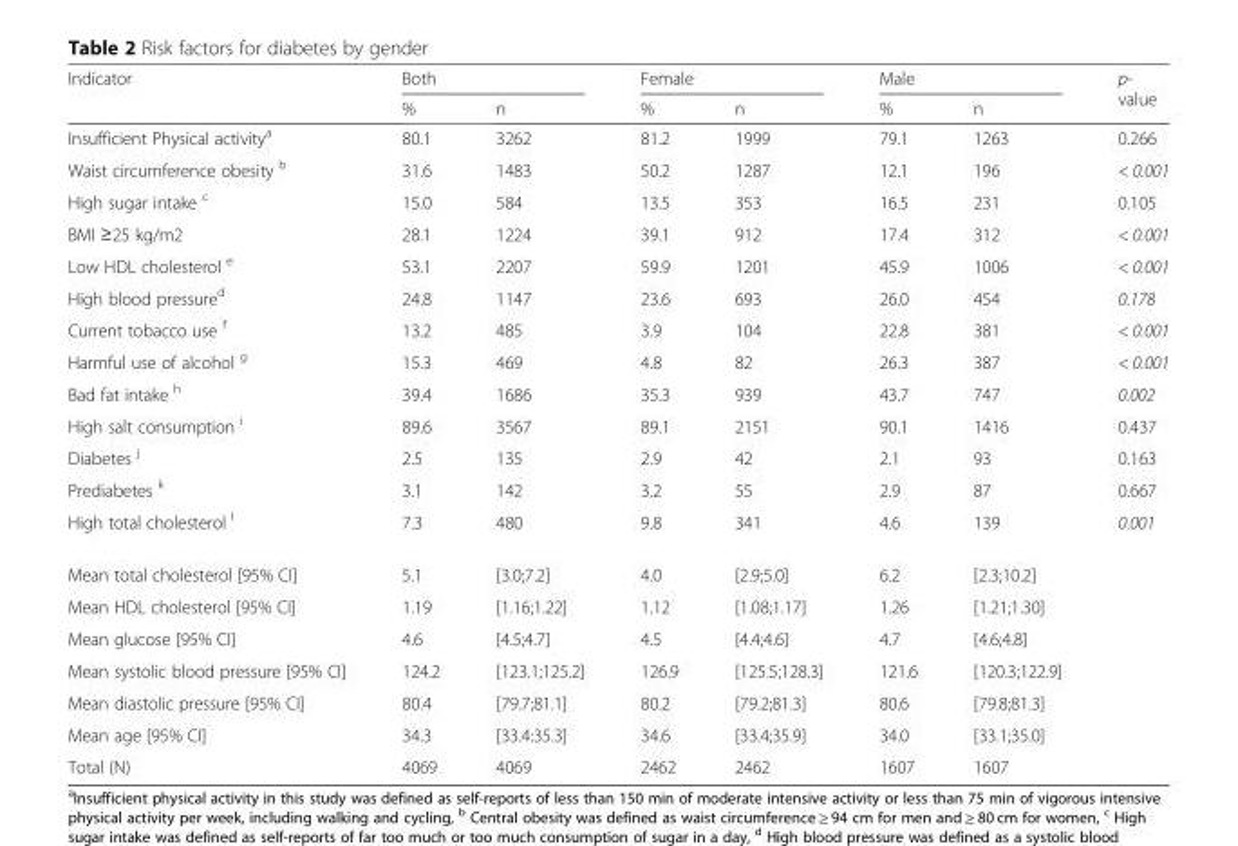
<table><thead><tr><td rowspan="2">Indicator</td><td colspan="2">Both</td><td colspan="2">Female</td><td colspan="2">Male</td><td rowspan="2">p- value</td></tr><tr><td>%</td><td>n</td><td>%</td><td>n</td><td>%</td><td>n</td></tr></thead><tbody><tr><td>Insufficient Physical activity<sup>a</sup></td><td>80.1</td><td>3262</td><td>81.2</td><td>1999</td><td>79.1</td><td>1263</td><td>0.266</td></tr><tr><td>Waist circumference obesity <sup>b</sup></td><td>31.6</td><td>1483</td><td>50.2</td><td>1287</td><td>12.1</td><td>196</td><td>&lt; 0.001</td></tr><tr><td>High sugar intake <sup>c</sup></td><td>15.0</td><td>584</td><td>13.5</td><td>353</td><td>16.5</td><td>231</td><td>0.105</td></tr><tr><td>BMI ≥25 kg/m2</td><td>28.1</td><td>1224</td><td>39.1</td><td>912</td><td>17.4</td><td>312</td><td>&lt; 0.001</td></tr><tr><td>Low HDL cholesterol <sup>e</sup></td><td>53.1</td><td>2207</td><td>59.9</td><td>1201</td><td>45.9</td><td>1006</td><td>&lt; 0.001</td></tr><tr><td>High blood pressure<sup>d</sup></td><td>24.8</td><td>1147</td><td>23.6</td><td>693</td><td>26.0</td><td>454</td><td>0.178</td></tr><tr><td>Current tobacco use <sup>f</sup></td><td>13.2</td><td>485</td><td>3.9</td><td>104</td><td>22.8</td><td>381</td><td>&lt; 0.001</td></tr><tr><td>Harmful use of alcohol <sup>g</sup></td><td>15.3</td><td>469</td><td>4.8</td><td>82</td><td>26.3</td><td>387</td><td>&lt; 0.001</td></tr><tr><td>Bad fat intake <sup>h</sup></td><td>39.4</td><td>1686</td><td>35.3</td><td>939</td><td>43.7</td><td>747</td><td>0.002</td></tr><tr><td>High salt consumption <sup>i</sup></td><td>89.6</td><td>3567</td><td>89.1</td><td>2151</td><td>90.1</td><td>1416</td><td>0.437</td></tr><tr><td>Diabetes <sup>j</sup></td><td>2.5</td><td>135</td><td>2.9</td><td>42</td><td>2.1</td><td>93</td><td>0.163</td></tr><tr><td>Prediabetes <sup>k</sup></td><td>3.1</td><td>142</td><td>3.2</td><td>55</td><td>2.9</td><td>87</td><td>0.667</td></tr><tr><td>High total cholesterol <sup>l</sup></td><td>7.3</td><td>480</td><td>9.8</td><td>341</td><td>4.6</td><td>139</td><td>0.001</td></tr><tr><td>Mean total cholesterol [95% CI]</td><td>5.1</td><td>[3.0;7.2]</td><td>4.0</td><td>[2.9;5.0]</td><td>6.2</td><td>[2.3;10.2]</td><td></td></tr><tr><td>Mean HDL cholesterol [95% CI]</td><td>1.19</td><td>[1.16;1.22]</td><td>1.12</td><td>[1.08;1.17]</td><td>1.26</td><td>[1.21;1.30]</td><td></td></tr><tr><td>Mean glucose [95% CI]</td><td>4.6</td><td>[4.5;4.7]</td><td>4.5</td><td>[4.4;4.6]</td><td>4.7</td><td>[4.6;4.8]</td><td></td></tr><tr><td>Mean systolic blood pressure [95% CI]</td><td>124.2</td><td>[123.1;125.2]</td><td>126.9</td><td>[125.5;128.3]</td><td>121.6</td><td>[120.3;122.9]</td><td></td></tr><tr><td>Mean diastolic pressure [95% CI]</td><td>80.4</td><td>[79.7;81.1]</td><td>80.2</td><td>[79.2;81.3]</td><td>80.6</td><td>[79.8;81.3]</td><td></td></tr><tr><td>Mean age [95% CI]</td><td>34.3</td><td>[33.4:35.3]</td><td>34.6</td><td>[33.4;35.9]</td><td>34.0</td><td>[33.1;35.0]</td><td></td></tr><tr><td>Total (N)</td><td>4069</td><td>4069</td><td>2462</td><td>2462</td><td>1607</td><td>1607</td><td></td></tr></tbody></table>